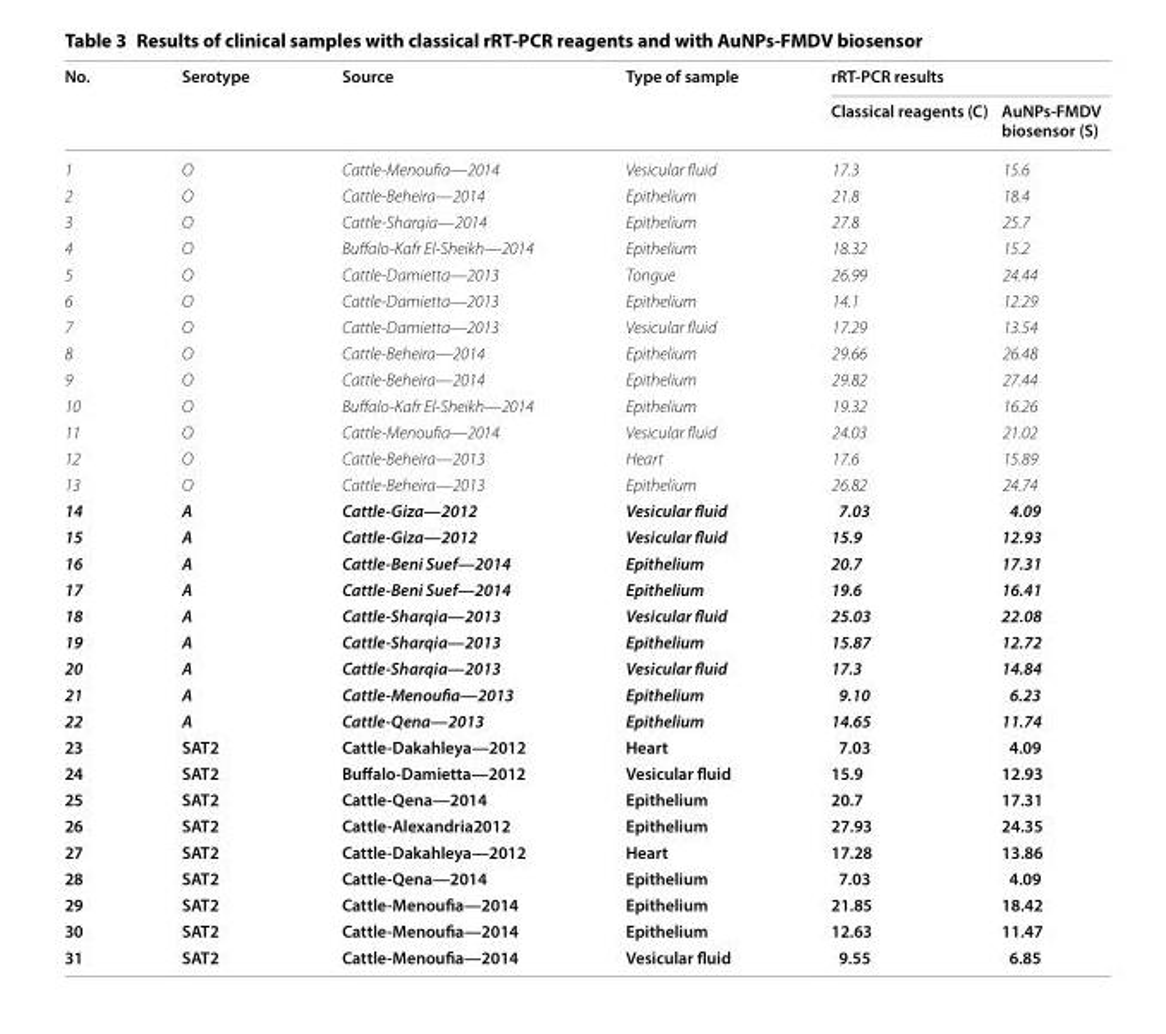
<table><thead><tr><td rowspan="2">No.</td><td rowspan="2">Serotype</td><td rowspan="2">Source</td><td rowspan="2">Type of sample</td><td colspan="2">rRT‑PCR results</td></tr><tr><td>Classical reagents (C)</td><td>AuNPs‑FMDV biosensor (S)</td></tr></thead><tbody><tr><td>1</td><td>O</td><td>Cattle-Menoufia—2014</td><td>Vesicular fluid</td><td>17.3</td><td>15.6</td></tr><tr><td>2</td><td>O</td><td>Cattle-Beheira—2014</td><td>Epithelium</td><td>21.8</td><td>18.4</td></tr><tr><td>3</td><td>O</td><td>Cattle-Sharqia—2014</td><td>Epithelium</td><td>27.8</td><td>25.7</td></tr><tr><td>4</td><td>O</td><td>Buffalo-Kafr El-Sheikh—2014</td><td>Epithelium</td><td>18.32</td><td>15.2</td></tr><tr><td>5</td><td>O</td><td>Cattle-Damietta—2013</td><td>Tongue</td><td>26.99</td><td>24.44</td></tr><tr><td>6</td><td>O</td><td>Cattle-Damietta—2013</td><td>Epithelium</td><td>14.1</td><td>12.29</td></tr><tr><td>7</td><td>O</td><td>Cattle-Damietta—2013</td><td>Vesicular fluid</td><td>17.29</td><td>13.54</td></tr><tr><td>8</td><td>O</td><td>Cattle-Beheira—2014</td><td>Epithelium</td><td>29.66</td><td>26.48</td></tr><tr><td>9</td><td>O</td><td>Cattle-Beheira—2014</td><td>Epithelium</td><td>29.82</td><td>27.44</td></tr><tr><td>10</td><td>O</td><td>Buffalo-Kafr El-Sheikh—2014</td><td>Epithelium</td><td>19.32</td><td>16.26</td></tr><tr><td>11</td><td>O</td><td>Cattle-Menoufia—2014</td><td>Vesicular fluid</td><td>24.03</td><td>21.02</td></tr><tr><td>12</td><td>O</td><td>Cattle-Beheira—2013</td><td>Heart</td><td>17.6</td><td>15.89</td></tr><tr><td>13</td><td>O</td><td>Cattle-Beheira—2013</td><td>Epithelium</td><td>26.82</td><td>24.74</td></tr><tr><td>14</td><td>A</td><td>Cattle-Giza—2012</td><td>Vesicular fluid</td><td>7.03</td><td>4.09</td></tr><tr><td>15</td><td>A</td><td>Cattle-Giza—2012</td><td>Vesicular fluid</td><td>15.9</td><td>12.93</td></tr><tr><td>16</td><td>A</td><td>Cattle-Beni Suef—2014</td><td>Epithelium</td><td>20.7</td><td>17.31</td></tr><tr><td>17</td><td>A</td><td>Cattle-Beni Suef—2014</td><td>Epithelium</td><td>19.6</td><td>16.41</td></tr><tr><td>18</td><td>A</td><td>Cattle-Sharqia—2013</td><td>Vesicular fluid</td><td>25.03</td><td>22.08</td></tr><tr><td>19</td><td>A</td><td>Cattle-Sharqia—2013</td><td>Epithelium</td><td>15.87</td><td>12.72</td></tr><tr><td>20</td><td>A</td><td>Cattle-Sharqia—2013</td><td>Vesicular fluid</td><td>17.3</td><td>14.84</td></tr><tr><td>21</td><td>A</td><td>Cattle-Menoufia—2013</td><td>Epithelium</td><td>9.10</td><td>6.23</td></tr><tr><td>22</td><td>A</td><td>Cattle-Qena—2013</td><td>Epithelium</td><td>14.65</td><td>11.74</td></tr><tr><td>23</td><td>SAT2</td><td>Cattle‑Dakahleya—2012</td><td>Heart</td><td>7.03</td><td>4.09</td></tr><tr><td>24</td><td>SAT2</td><td>Buffalo‑Damietta—2012</td><td>Vesicular fluid</td><td>15.9</td><td>12.93</td></tr><tr><td>25</td><td>SAT2</td><td>Cattle‑Qena—2014</td><td>Epithelium</td><td>20.7</td><td>17.31</td></tr><tr><td>26</td><td>SAT2</td><td>Cattle‑Alexandria2012</td><td>Epithelium</td><td>27.93</td><td>24.35</td></tr><tr><td>27</td><td>SAT2</td><td>Cattle‑Dakahleya—2012</td><td>Heart</td><td>17.28</td><td>13.86</td></tr><tr><td>28</td><td>SAT2</td><td>Cattle‑Qena—2014</td><td>Epithelium</td><td>7.03</td><td>4.09</td></tr><tr><td>29</td><td>SAT2</td><td>Cattle‑Menoufia—2014</td><td>Epithelium</td><td>21.85</td><td>18.42</td></tr><tr><td>30</td><td>SAT2</td><td>Cattle‑Menoufia—2014</td><td>Epithelium</td><td>12.63</td><td>11.47</td></tr><tr><td>31</td><td>SAT2</td><td>Cattle‑Menoufia—2014</td><td>Vesicular fluid</td><td>9.55</td><td>6.85</td></tr></tbody></table>